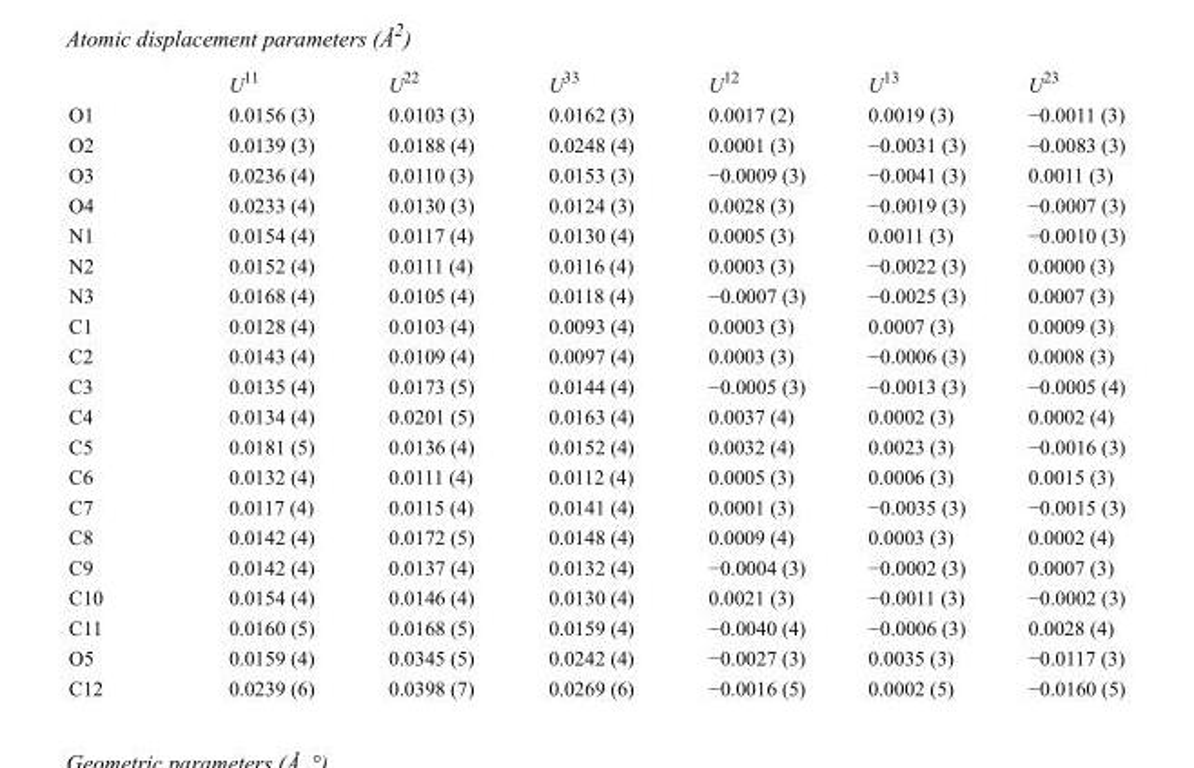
<table><thead><tr><td></td><td>U<sup>11</sup></td><td>U<sup>22</sup></td><td>U<sup>33</sup></td><td>U<sup>12</sup></td><td>U<sup>13</sup></td><td>U<sup>23</sup></td></tr></thead><tbody><tr><td>O1</td><td>0.0156 (3)</td><td>0.0103 (3)</td><td>0.0162 (3)</td><td>0.0017 (2)</td><td>0.0019 (3)</td><td>−0.0011 (3)</td></tr><tr><td>O2</td><td>0.0139 (3)</td><td>0.0188 (4)</td><td>0.0248 (4)</td><td>0.0001 (3)</td><td>−0.0031 (3)</td><td>−0.0083 (3)</td></tr><tr><td>O3</td><td>0.0236 (4)</td><td>0.0110 (3)</td><td>0.0153 (3)</td><td>−0.0009 (3)</td><td>−0.0041 (3)</td><td>0.0011 (3)</td></tr><tr><td>O4</td><td>0.0233 (4)</td><td>0.0130 (3)</td><td>0.0124 (3)</td><td>0.0028 (3)</td><td>−0.0019 (3)</td><td>−0.0007 (3)</td></tr><tr><td>N1</td><td>0.0154 (4)</td><td>0.0117 (4)</td><td>0.0130 (4)</td><td>0.0005 (3)</td><td>0.0011 (3)</td><td>−0.0010 (3)</td></tr><tr><td>N2</td><td>0.0152 (4)</td><td>0.0111 (4)</td><td>0.0116 (4)</td><td>0.0003 (3)</td><td>−0.0022 (3)</td><td>0.0000 (3)</td></tr><tr><td>N3</td><td>0.0168 (4)</td><td>0.0105 (4)</td><td>0.0118 (4)</td><td>−0.0007 (3)</td><td>−0.0025 (3)</td><td>0.0007 (3)</td></tr><tr><td>C1</td><td>0.0128 (4)</td><td>0.0103 (4)</td><td>0.0093 (4)</td><td>0.0003 (3)</td><td>0.0007 (3)</td><td>0.0009 (3)</td></tr><tr><td>C2</td><td>0.0143 (4)</td><td>0.0109 (4)</td><td>0.0097 (4)</td><td>0.0003 (3)</td><td>−0.0006 (3)</td><td>0.0008 (3)</td></tr><tr><td>C3</td><td>0.0135 (4)</td><td>0.0173 (5)</td><td>0.0144 (4)</td><td>−0.0005 (3)</td><td>−0.0013 (3)</td><td>−0.0005 (4)</td></tr><tr><td>C4</td><td>0.0134 (4)</td><td>0.0201 (5)</td><td>0.0163 (4)</td><td>0.0037 (4)</td><td>0.0002 (3)</td><td>0.0002 (4)</td></tr><tr><td>C5</td><td>0.0181 (5)</td><td>0.0136 (4)</td><td>0.0152 (4)</td><td>0.0032 (4)</td><td>0.0023 (3)</td><td>−0.0016 (3)</td></tr><tr><td>C6</td><td>0.0132 (4)</td><td>0.0111 (4)</td><td>0.0112 (4)</td><td>0.0005 (3)</td><td>0.0006 (3)</td><td>0.0015 (3)</td></tr><tr><td>C7</td><td>0.0117 (4)</td><td>0.0115 (4)</td><td>0.0141 (4)</td><td>0.0001 (3)</td><td>−0.0035 (3)</td><td>−0.0015 (3)</td></tr><tr><td>C8</td><td>0.0142 (4)</td><td>0.0172 (5)</td><td>0.0148 (4)</td><td>0.0009 (4)</td><td>0.0003 (3)</td><td>0.0002 (4)</td></tr><tr><td>C9</td><td>0.0142 (4)</td><td>0.0137 (4)</td><td>0.0132 (4)</td><td>−0.0004 (3)</td><td>−0.0002 (3)</td><td>0.0007 (3)</td></tr><tr><td>C10</td><td>0.0154 (4)</td><td>0.0146 (4)</td><td>0.0130 (4)</td><td>0.0021 (3)</td><td>−0.0011 (3)</td><td>−0.0002 (3)</td></tr><tr><td>C11</td><td>0.0160 (5)</td><td>0.0168 (5)</td><td>0.0159 (4)</td><td>−0.0040 (4)</td><td>−0.0006 (3)</td><td>0.0028 (4)</td></tr><tr><td>O5</td><td>0.0159 (4)</td><td>0.0345 (5)</td><td>0.0242 (4)</td><td>−0.0027 (3)</td><td>0.0035 (3)</td><td>−0.0117 (3)</td></tr><tr><td>C12</td><td>0.0239 (6)</td><td>0.0398 (7)</td><td>0.0269 (6)</td><td>−0.0016 (5)</td><td>0.0002 (5)</td><td>−0.0160 (5)</td></tr></tbody></table>